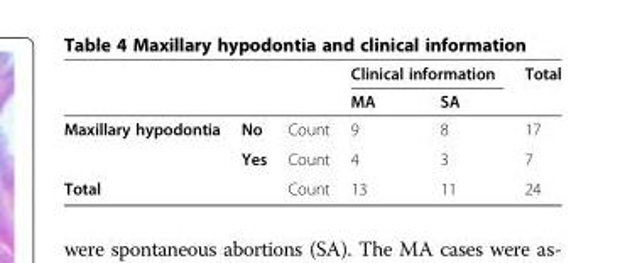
<table><thead><tr><td rowspan="2"></td><td rowspan="2"></td><td rowspan="2"></td><td colspan="2">Clinical information</td><td rowspan="2">Total</td></tr><tr><td>MA</td><td>SA</td></tr></thead><tbody><tr><td rowspan="2">Maxillary hypodontia</td><td>No</td><td>Count</td><td>9</td><td>8</td><td>17</td></tr><tr><td>Yes</td><td>Count</td><td>4</td><td>3</td><td>7</td></tr><tr><td colspan="2">Total</td><td>Count</td><td>13</td><td>11</td><td>24</td></tr></tbody></table>